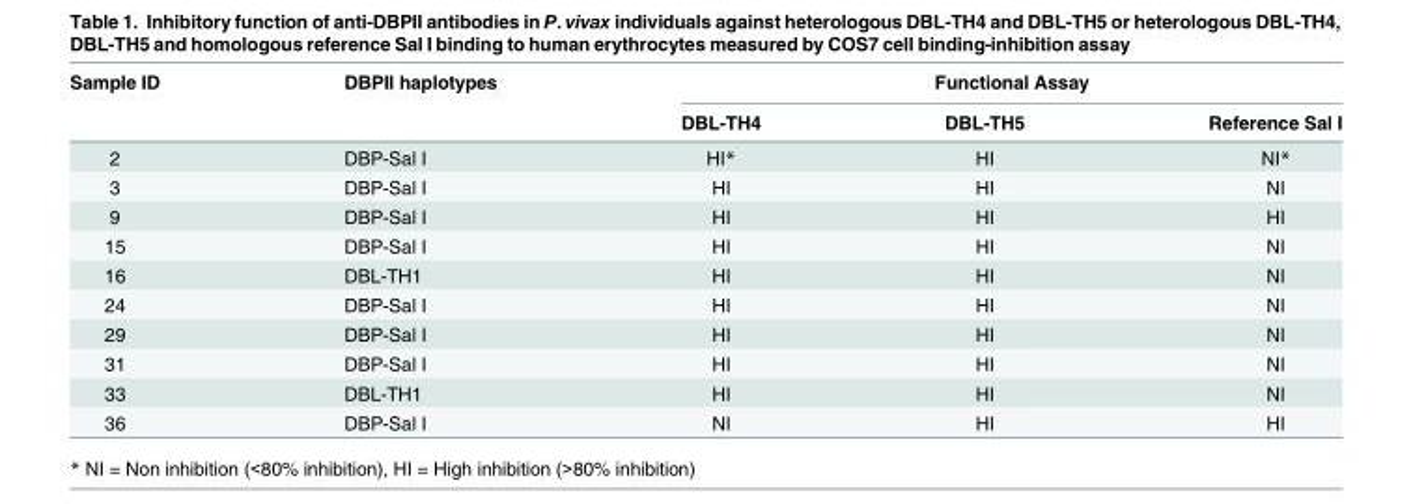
<table><thead><tr><td rowspan="2">Sample ID</td><td rowspan="2">DBPII haplotypes</td><td colspan="3">Functional Assay</td></tr><tr><td>DBL-TH4</td><td>DBL-TH5</td><td>Reference Sal I</td></tr></thead><tbody><tr><td>2</td><td>DBP-Sal I</td><td>HI*</td><td>HI</td><td>NI*</td></tr><tr><td>3</td><td>DBP-Sal I</td><td>HI</td><td>HI</td><td>NI</td></tr><tr><td>9</td><td>DBP-Sal I</td><td>HI</td><td>HI</td><td>HI</td></tr><tr><td>15</td><td>DBP-Sal I</td><td>HI</td><td>HI</td><td>NI</td></tr><tr><td>16</td><td>DBL-TH1</td><td>HI</td><td>HI</td><td>NI</td></tr><tr><td>24</td><td>DBP-Sal I</td><td>HI</td><td>HI</td><td>NI</td></tr><tr><td>29</td><td>DBP-Sal I</td><td>HI</td><td>HI</td><td>NI</td></tr><tr><td>31</td><td>DBP-Sal I</td><td>HI</td><td>HI</td><td>NI</td></tr><tr><td>33</td><td>DBL-TH1</td><td>HI</td><td>HI</td><td>NI</td></tr><tr><td>36</td><td>DBP-Sal I</td><td>NI</td><td>HI</td><td>HI</td></tr></tbody></table>